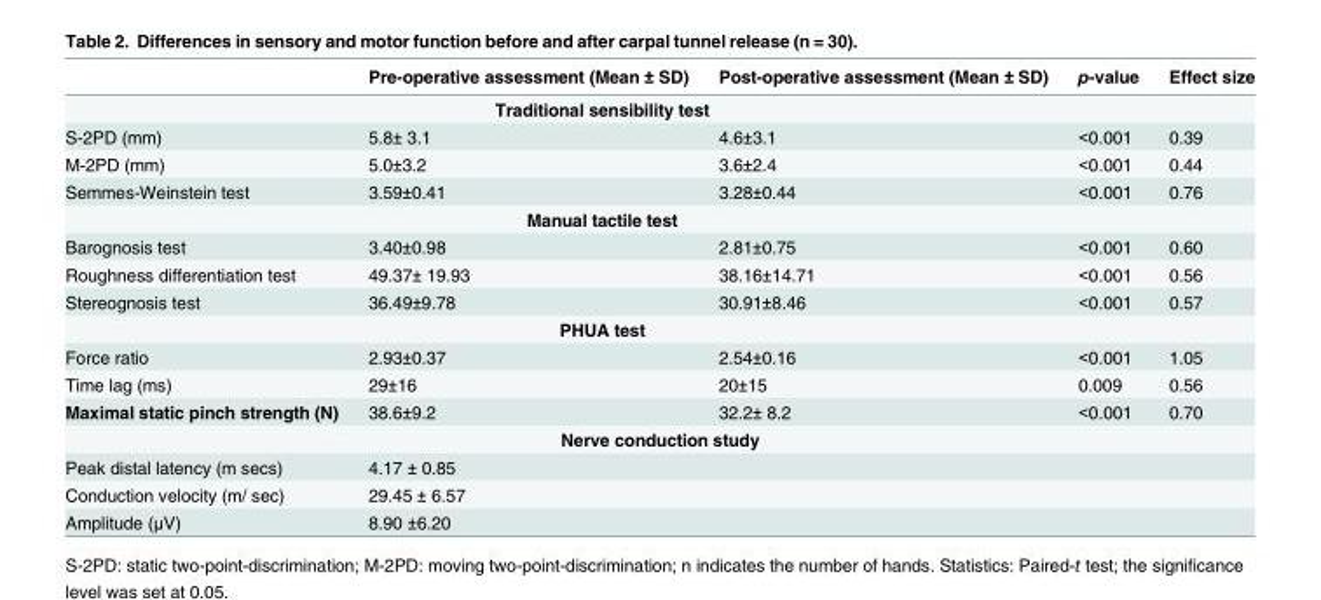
<table><thead><tr><td></td><td>Pre-operative assessment (Mean ± SD)</td><td>Post-operative assessment (Mean ± SD)</td><td>p-value</td><td>Effect size</td></tr></thead><tbody><tr><td colspan="5">Traditional sensibility test</td></tr><tr><td>S-2PD (mm)</td><td>5.8± 3.1</td><td>4.6±3.1</td><td>&lt;0.001</td><td>0.39</td></tr><tr><td>M-2PD (mm)</td><td>5.0±3.2</td><td>3.6±2.4</td><td>&lt;0.001</td><td>0.44</td></tr><tr><td>Semmes-Weinstein test</td><td>3.59±0.41</td><td>3.28±0.44</td><td>&lt;0.001</td><td>0.76</td></tr><tr><td colspan="5">Manual tactile test</td></tr><tr><td>Barognosis test</td><td>3.40±0.98</td><td>2.81±0.75</td><td>&lt;0.001</td><td>0.60</td></tr><tr><td>Roughness differentiation test</td><td>49.37± 19.93</td><td>38.16±14.71</td><td>&lt;0.001</td><td>0.56</td></tr><tr><td>Stereognosis test</td><td>36.49±9.78</td><td>30.91±8.46</td><td>&lt;0.001</td><td>0.57</td></tr><tr><td colspan="5">PHUA test</td></tr><tr><td>Force ratio</td><td>2.93±0.37</td><td>2.54±0.16</td><td>&lt;0.001</td><td>1.05</td></tr><tr><td>Time lag (ms)</td><td>29±16</td><td>20±15</td><td>0.009</td><td>0.56</td></tr><tr><td>Maximal static pinch strength (N)</td><td>38.6±9.2</td><td>32.2± 8.2</td><td>&lt;0.001</td><td>0.70</td></tr><tr><td colspan="5">Nerve conduction study</td></tr><tr><td>Peak distal latency (m secs)</td><td>4.17 ± 0.85</td><td></td><td></td><td></td></tr><tr><td>Conduction velocity (m/ sec)</td><td>29.45 ± 6.57</td><td></td><td></td><td></td></tr><tr><td>Amplitude (μV)</td><td>8.90 ±6.20</td><td></td><td></td><td></td></tr></tbody></table>